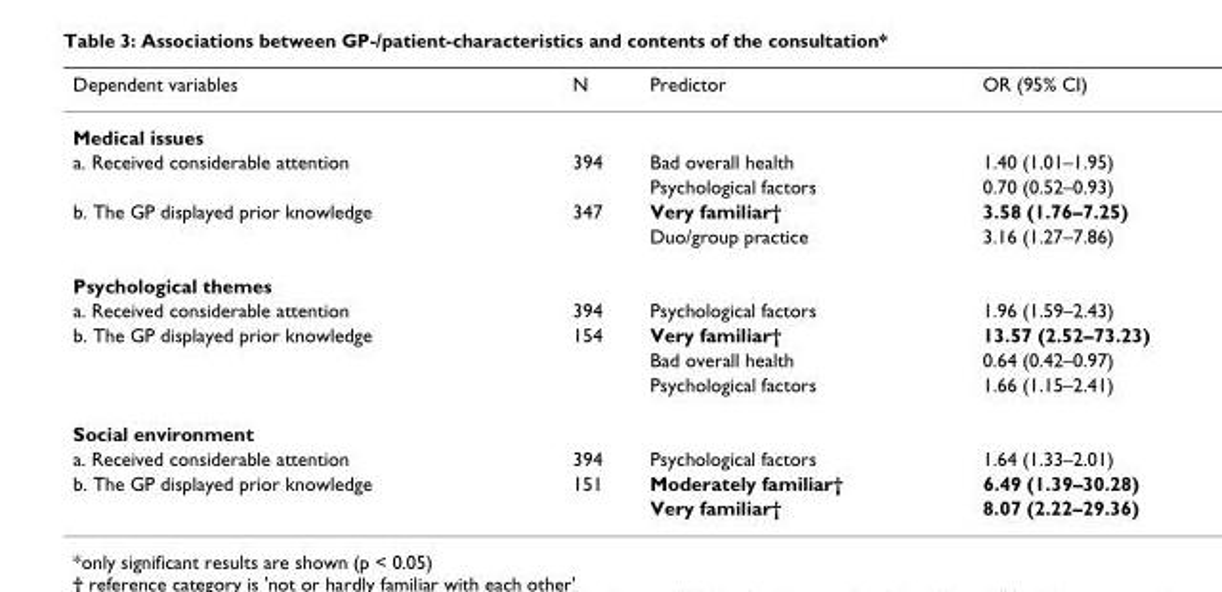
<table><thead><tr><td>Dependent variables</td><td>N</td><td>Predictor</td><td>OR (95% CI)</td></tr></thead><tbody><tr><td colspan="4">Medical issues</td></tr><tr><td rowspan="2">a. Received considerable attention</td><td>394</td><td>Bad overall health</td><td>1.40 (1.01–1.95)</td></tr><tr><td></td><td>Psychological factors</td><td>0.70 (0.52–0.93)</td></tr><tr><td rowspan="2">b. The GP displayed prior knowledge</td><td>347</td><td>Very familiar†</td><td>3.58 (1.76–7.25)</td></tr><tr><td></td><td>Duo/group practice</td><td>3.16 (1.27–7.86)</td></tr><tr><td colspan="4">Psychological themes</td></tr><tr><td>a. Received considerable attention</td><td>394</td><td>Psychological factors</td><td>1.96 (1.59–2.43)</td></tr><tr><td rowspan="3">b. The GP displayed prior knowledge</td><td>154</td><td>Very familiar†</td><td>13.57 (2.52–73.23)</td></tr><tr><td></td><td>Bad overall health</td><td>0.64 (0.42–0.97)</td></tr><tr><td></td><td>Psychological factors</td><td>1.66 (1.15–2.41)</td></tr><tr><td colspan="4">Social environment</td></tr><tr><td>a. Received considerable attention</td><td>394</td><td>Psychological factors</td><td>1.64 (1.33–2.01)</td></tr><tr><td rowspan="2">b. The GP displayed prior knowledge</td><td>151</td><td>Moderately familiar†</td><td>6.49 (1.39–30.28)</td></tr><tr><td></td><td>Very familiar†</td><td>8.07 (2.22–29.36)</td></tr></tbody></table>